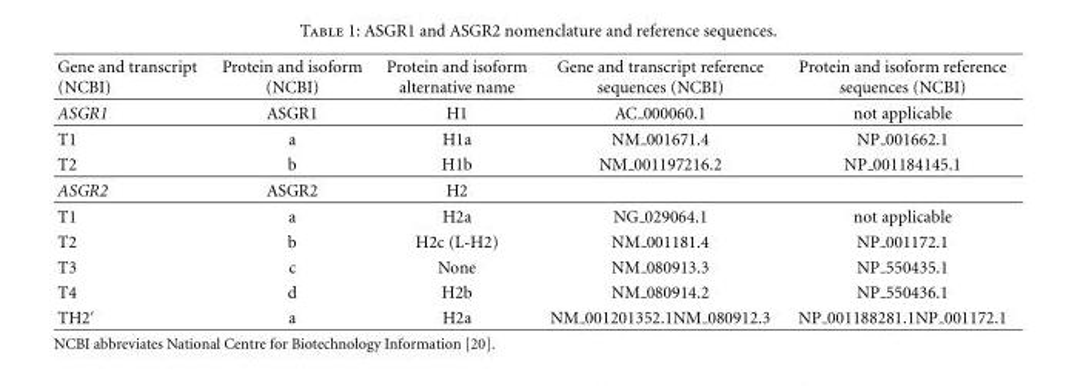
<table><thead><tr><td>Gene and transcript (NCBI)</td><td>Protein and isoform (NCBI)</td><td>Protein and isoform alternative name</td><td>Gene and transcript reference sequences (NCBI)</td><td>Protein and isoform reference sequences (NCBI)</td></tr></thead><tbody><tr><td>ASGR1</td><td>ASGR1</td><td>H1</td><td>AC 000060.1</td><td>not applicable</td></tr><tr><td>T1</td><td>a</td><td>H1a</td><td>NM 001671.4</td><td>NP 001662.1</td></tr><tr><td>T2</td><td>b</td><td>H1b</td><td>NM 001197216.2</td><td>NP 001184145.1</td></tr><tr><td>ASGR2</td><td>ASGR2</td><td>H2</td><td></td><td></td></tr><tr><td>T1</td><td>a</td><td>H2a</td><td>NG 029064.1</td><td>not applicable</td></tr><tr><td>T2</td><td>b</td><td>H2c (L-H2)</td><td>NM 001181.4</td><td>NP 001172.1</td></tr><tr><td>T3</td><td>c</td><td>None</td><td>NM 080913.3</td><td>NP 550435.1</td></tr><tr><td>T4</td><td>d</td><td>H2b</td><td>NM 080914.2</td><td>NP 550436.1</td></tr><tr><td>TH2<sup>′</sup></td><td>a</td><td>H2a</td><td>NM <sub>001201352.1NM</sub> 080912.3</td><td>NP <sub>001188281.1NP</sub> 001172.1</td></tr></tbody></table>